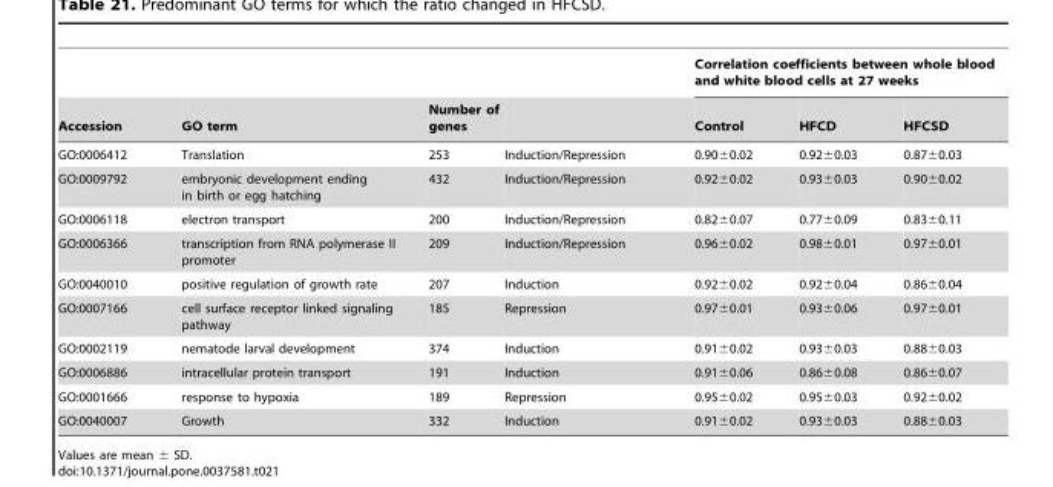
<table><thead><tr><td rowspan="2">Accession</td><td rowspan="2">GO term</td><td rowspan="2">Number of genes</td><td rowspan="2"></td><td colspan="3">Correlation coefficients between whole blood and white blood cells at 27 weeks</td></tr><tr><td>Control</td><td>HFCD</td><td>HFCSD</td></tr></thead><tbody><tr><td>GO:0006412</td><td>Translation</td><td>253</td><td>Induction/Repression</td><td>0.90±0.02</td><td>0.92±0.03</td><td>0.87±0.03</td></tr><tr><td>GO:0009792</td><td>embryonic development ending in birth or egg hatching</td><td>432</td><td>Induction/Repression</td><td>0.92±0.02</td><td>0.93±0.03</td><td>0.90±0.02</td></tr><tr><td>GO:0006118</td><td>electron transport</td><td>200</td><td>Induction/Repression</td><td>0.82±0.07</td><td>0.77±0.09</td><td>0.83±0.11</td></tr><tr><td>GO:0006366</td><td>transcription from RNA polymerase II promoter</td><td>209</td><td>Induction/Repression</td><td>0.96±0.02</td><td>0.98±0.01</td><td>0.97±0.01</td></tr><tr><td>GO:0040010</td><td>positive regulation of growth rate</td><td>207</td><td>Induction</td><td>0.92±0.02</td><td>0.92±0.04</td><td>0.86±0.04</td></tr><tr><td>GO:0007166</td><td>cell surface receptor linked signaling pathway</td><td>185</td><td>Repression</td><td>0.97±0.01</td><td>0.93±0.06</td><td>0.97±0.01</td></tr><tr><td>GO:0002119</td><td>nematode larval development</td><td>374</td><td>Induction</td><td>0.91±0.02</td><td>0.93±0.03</td><td>0.88±0.03</td></tr><tr><td>GO:0006886</td><td>intracellular protein transport</td><td>191</td><td>Induction</td><td>0.91±0.06</td><td>0.86±0.08</td><td>0.86±0.07</td></tr><tr><td>GO:0001666</td><td>response to hypoxia</td><td>189</td><td>Repression</td><td>0.95±0.02</td><td>0.95±0.03</td><td>0.92±0.02</td></tr><tr><td>GO:0040007</td><td>Growth</td><td>332</td><td>Induction</td><td>0.91±0.02</td><td>0.93±0.03</td><td>0.88±0.03</td></tr></tbody></table>